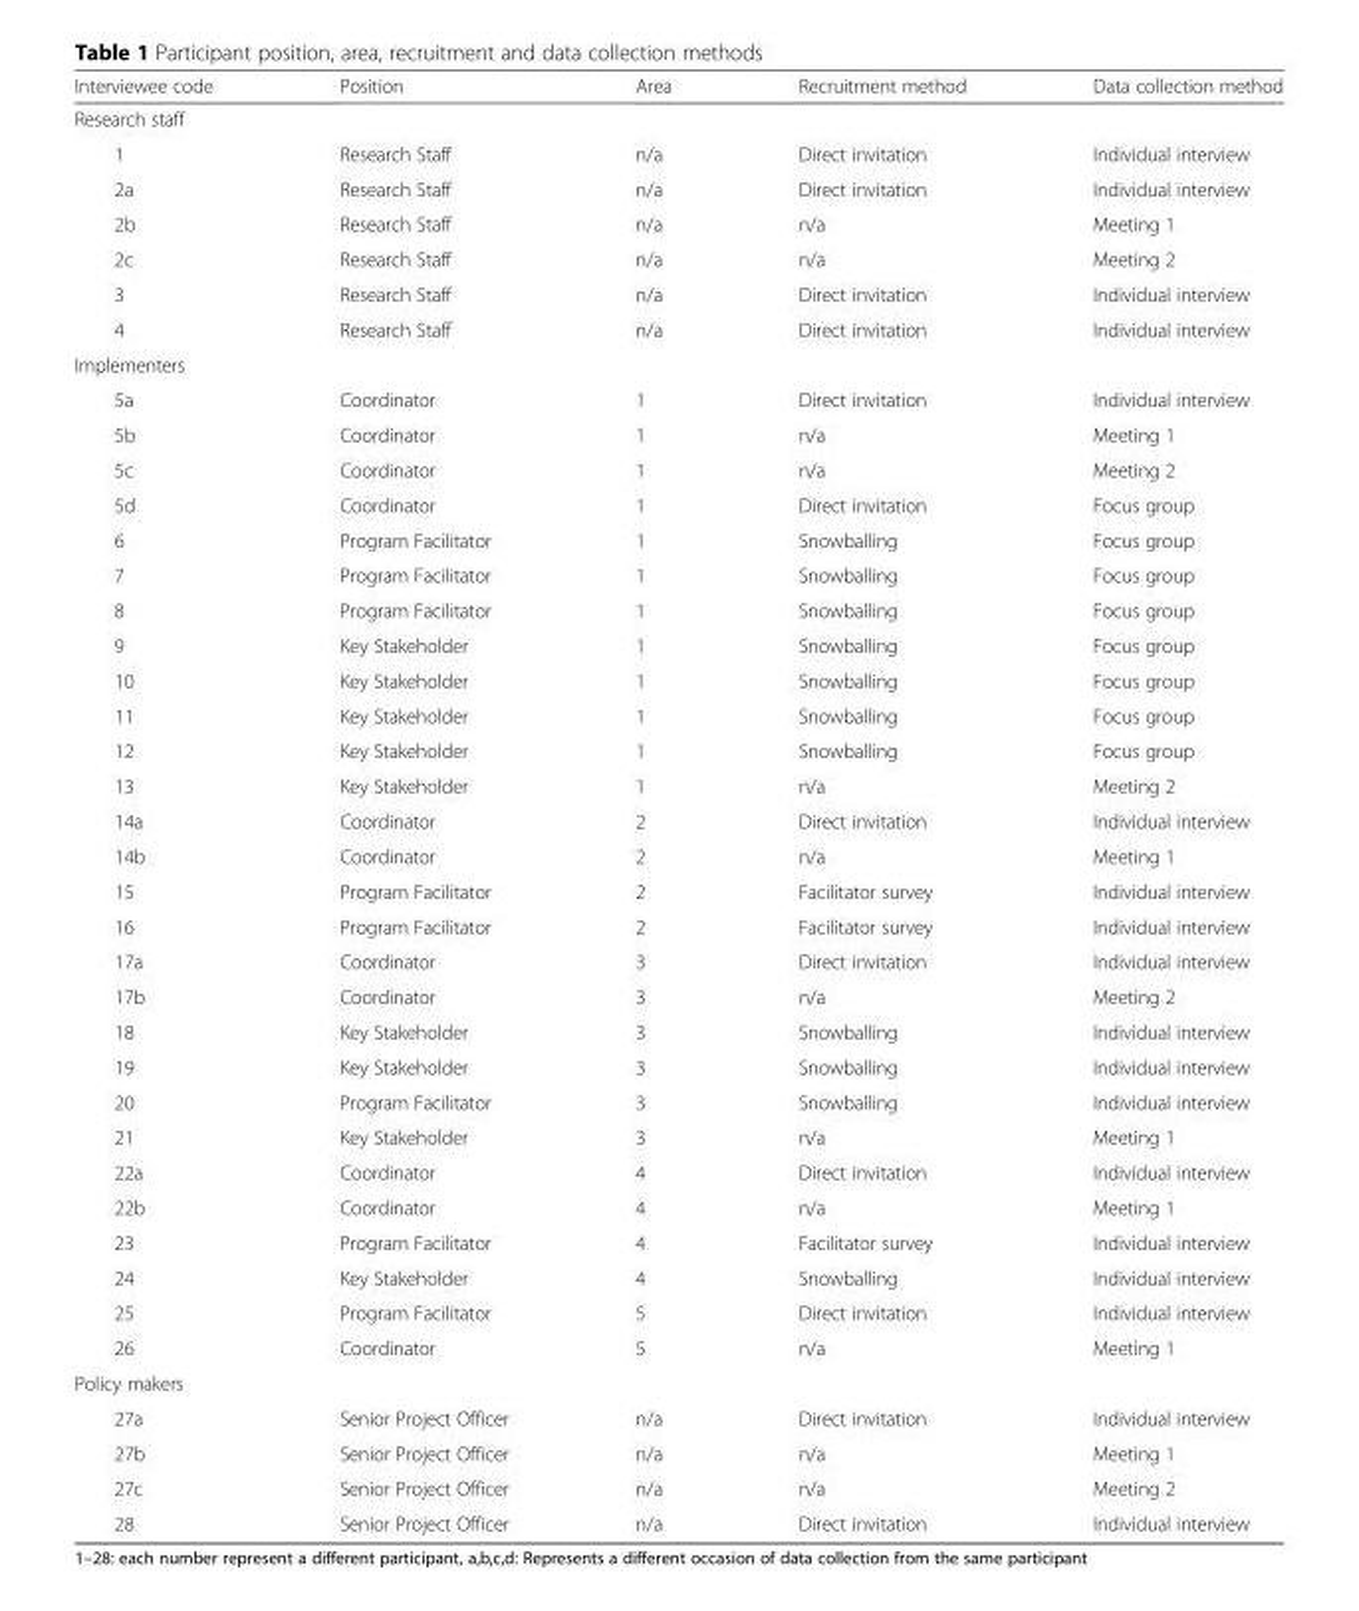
<table><thead><tr><td>Interviewee code</td><td>Position</td><td>Area</td><td>Recruitment method</td><td>Data collection method</td></tr></thead><tbody><tr><td colspan="5">Research staff</td></tr><tr><td>1</td><td>Research Staff</td><td>n/a</td><td>Direct invitation</td><td>Individual interview</td></tr><tr><td>2a</td><td>Research Staff</td><td>n/a</td><td>Direct invitation</td><td>Individual interview</td></tr><tr><td>2b</td><td>Research Staff</td><td>n/a</td><td>n/a</td><td>Meeting 1</td></tr><tr><td>2c</td><td>Research Staff</td><td>n/a</td><td>n/a</td><td>Meeting 2</td></tr><tr><td>3</td><td>Research Staff</td><td>n/a</td><td>Direct invitation</td><td>Individual interview</td></tr><tr><td>4</td><td>Research Staff</td><td>n/a</td><td>Direct invitation</td><td>Individual interview</td></tr><tr><td colspan="5">Implementers</td></tr><tr><td>5a</td><td>Coordinator</td><td>1</td><td>Direct invitation</td><td>Individual interview</td></tr><tr><td>5b</td><td>Coordinator</td><td>1</td><td>n/a</td><td>Meeting 1</td></tr><tr><td>5c</td><td>Coordinator</td><td>1</td><td>n/a</td><td>Meeting 2</td></tr><tr><td>5d</td><td>Coordinator</td><td>1</td><td>Direct invitation</td><td>Focus group</td></tr><tr><td>6</td><td>Program Facilitator</td><td>1</td><td>Snowballing</td><td>Focus group</td></tr><tr><td>7</td><td>Program Facilitator</td><td>1</td><td>Snowballing</td><td>Focus group</td></tr><tr><td>8</td><td>Program Facilitator</td><td>1</td><td>Snowballing</td><td>Focus group</td></tr><tr><td>9</td><td>Key Stakeholder</td><td>1</td><td>Snowballing</td><td>Focus group</td></tr><tr><td>10</td><td>Key Stakeholder</td><td>1</td><td>Snowballing</td><td>Focus group</td></tr><tr><td>11</td><td>Key Stakeholder</td><td>1</td><td>Snowballing</td><td>Focus group</td></tr><tr><td>12</td><td>Key Stakeholder</td><td>1</td><td>Snowballing</td><td>Focus group</td></tr><tr><td>13</td><td>Key Stakeholder</td><td>1</td><td>n/a</td><td>Meeting 2</td></tr><tr><td>14a</td><td>Coordinator</td><td>2</td><td>Direct invitation</td><td>Individual interview</td></tr><tr><td>14b</td><td>Coordinator</td><td>2</td><td>n/a</td><td>Meeting 1</td></tr><tr><td>15</td><td>Program Facilitator</td><td>2</td><td>Facilitator survey</td><td>Individual interview</td></tr><tr><td>16</td><td>Program Facilitator</td><td>2</td><td>Facilitator survey</td><td>Individual interview</td></tr><tr><td>17a</td><td>Coordinator</td><td>3</td><td>Direct invitation</td><td>Individual interview</td></tr><tr><td>17b</td><td>Coordinator</td><td>3</td><td>n/a</td><td>Meeting 2</td></tr><tr><td>18</td><td>Key Stakeholder</td><td>3</td><td>Snowballing</td><td>Individual interview</td></tr><tr><td>19</td><td>Key Stakeholder</td><td>3</td><td>Snowballing</td><td>Individual interview</td></tr><tr><td>20</td><td>Program Facilitator</td><td>3</td><td>Snowballing</td><td>Individual interview</td></tr><tr><td>21</td><td>Key Stakeholder</td><td>3</td><td>n/a</td><td>Meeting 1</td></tr><tr><td>22a</td><td>Coordinator</td><td>4</td><td>Direct invitation</td><td>Individual interview</td></tr><tr><td>22b</td><td>Coordinator</td><td>4</td><td>n/a</td><td>Meeting 1</td></tr><tr><td>23</td><td>Program Facilitator</td><td>4</td><td>Facilitator survey</td><td>Individual interview</td></tr><tr><td>24</td><td>Key Stakeholder</td><td>4</td><td>Snowballing</td><td>Individual interview</td></tr><tr><td>25</td><td>Program Facilitator</td><td>5</td><td>Direct invitation</td><td>Individual interview</td></tr><tr><td>26</td><td>Coordinator</td><td>5</td><td>n/a</td><td>Meeting 1</td></tr><tr><td colspan="5">Policy makers</td></tr><tr><td>27a</td><td>Senior Project Officer</td><td>n/a</td><td>Direct invitation</td><td>Individual interview</td></tr><tr><td>27b</td><td>Senior Project Officer</td><td>n/a</td><td>n/a</td><td>Meeting 1</td></tr><tr><td>27c</td><td>Senior Project Officer</td><td>n/a</td><td>n/a</td><td>Meeting 2</td></tr><tr><td>28</td><td>Senior Project Officer</td><td>n/a</td><td>Direct invitation</td><td>Individual interview</td></tr></tbody></table>